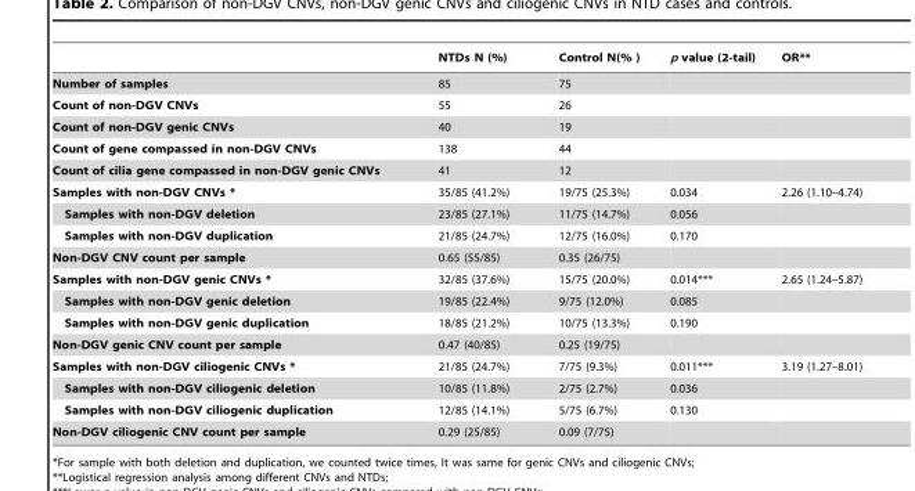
<table><thead><tr><td></td><td>NTDs N (%)</td><td>Control N(% )</td><td>p value (2-tail)</td><td>OR**</td></tr></thead><tbody><tr><td>Number of samples</td><td>85</td><td>75</td><td></td><td></td></tr><tr><td>Count of non-DGV CNVs</td><td>55</td><td>26</td><td></td><td></td></tr><tr><td>Count of non-DGV genic CNVs</td><td>40</td><td>19</td><td></td><td></td></tr><tr><td>Count of gene compassed in non-DGV CNVs</td><td>138</td><td>44</td><td></td><td></td></tr><tr><td>Count of cilia gene compassed in non-DGV genic CNVs</td><td>41</td><td>12</td><td></td><td></td></tr><tr><td>Samples with non-DGV CNVs *</td><td>35/85 (41.2%)</td><td>19/75 (25.3%)</td><td>0.034</td><td>2.26 (1.10–4.74)</td></tr><tr><td>Samples with non-DGV deletion</td><td>23/85 (27.1%)</td><td>11/75 (14.7%)</td><td>0.056</td><td></td></tr><tr><td>Samples with non-DGV duplication</td><td>21/85 (24.7%)</td><td>12/75 (16.0%)</td><td>0.170</td><td></td></tr><tr><td>Non-DGV CNV count per sample</td><td>0.65 (55/85)</td><td>0.35 (26/75)</td><td></td><td></td></tr><tr><td>Samples with non-DGV genic CNVs *</td><td>32/85 (37.6%)</td><td>15/75 (20.0%)</td><td>0.014***</td><td>2.65 (1.24–5.87)</td></tr><tr><td>Samples with non-DGV genic deletion</td><td>19/85 (22.4%)</td><td>9/75 (12.0%)</td><td>0.085</td><td></td></tr><tr><td>Samples with non-DGV genic duplication</td><td>18/85 (21.2%)</td><td>10/75 (13.3%)</td><td>0.190</td><td></td></tr><tr><td>Non-DGV genic CNV count per sample</td><td>0.47 (40/85)</td><td>0.25 (19/75)</td><td></td><td></td></tr><tr><td>Samples with non-DGV ciliogenic CNVs *</td><td>21/85 (24.7%)</td><td>7/75 (9.3%)</td><td>0.011***</td><td>3.19 (1.27–8.01)</td></tr><tr><td>Samples with non-DGV ciliogenic deletion</td><td>10/85 (11.8%)</td><td>2/75 (2.7%)</td><td>0.036</td><td></td></tr><tr><td>Samples with non-DGV ciliogenic duplication</td><td>12/85 (14.1%)</td><td>5/75 (6.7%)</td><td>0.130</td><td></td></tr><tr><td>Non-DGV ciliogenic CNV count per sample</td><td>0.29 (25/85)</td><td>0.09 (7/75)</td><td></td><td></td></tr></tbody></table>